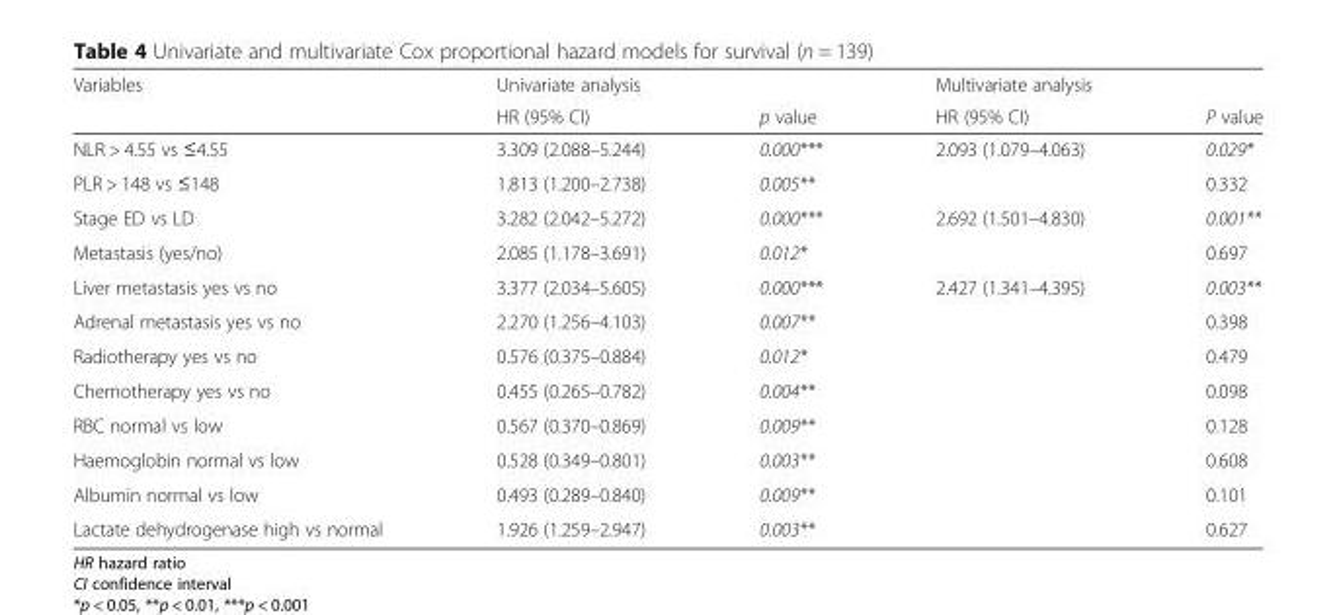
<table><thead><tr><td rowspan="2">Variables</td><td rowspan="2">Univariate analysis HR (95% CI)</td><td rowspan="2">p value</td><td rowspan="2">Multivariate analysis HR (95% CI)</td><td rowspan="2">P value</td></tr><tr></tr></thead><tbody><tr><td>NLR &gt; 4.55 vs ≤4.55</td><td>3.309 (2.088–5.244)</td><td>0.000***</td><td>2.093 (1.079–4.063)</td><td>0.029*</td></tr><tr><td>PLR &gt; 148 vs ≤148</td><td>1.813 (1.200–2.738)</td><td>0.005**</td><td></td><td>0.332</td></tr><tr><td>Stage ED vs LD</td><td>3.282 (2.042–5.272)</td><td>0.000***</td><td>2.692 (1.501–4.830)</td><td>0.001**</td></tr><tr><td>Metastasis (yes/no)</td><td>2.085 (1.178–3.691)</td><td>0.012*</td><td></td><td>0.697</td></tr><tr><td>Liver metastasis yes vs no</td><td>3.377 (2.034–5.605)</td><td>0.000***</td><td>2.427 (1.341–4.395)</td><td>0.003**</td></tr><tr><td>Adrenal metastasis yes vs no</td><td>2.270 (1.256–4.103)</td><td>0.007**</td><td></td><td>0.398</td></tr><tr><td>Radiotherapy yes vs no</td><td>0.576 (0.375–0.884)</td><td>0.012*</td><td></td><td>0.479</td></tr><tr><td>Chemotherapy yes vs no</td><td>0.455 (0.265–0.782)</td><td>0.004**</td><td></td><td>0.098</td></tr><tr><td>RBC normal vs low</td><td>0.567 (0.370–0.869)</td><td>0.009**</td><td></td><td>0.128</td></tr><tr><td>Haemoglobin normal vs low</td><td>0.528 (0.349–0.801)</td><td>0.003**</td><td></td><td>0.608</td></tr><tr><td>Albumin normal vs low</td><td>0.493 (0.289–0.840)</td><td>0.009**</td><td></td><td>0.101</td></tr><tr><td>Lactate dehydrogenase high vs normal</td><td>1.926 (1.259–2.947)</td><td>0.003**</td><td></td><td>0.627</td></tr></tbody></table>